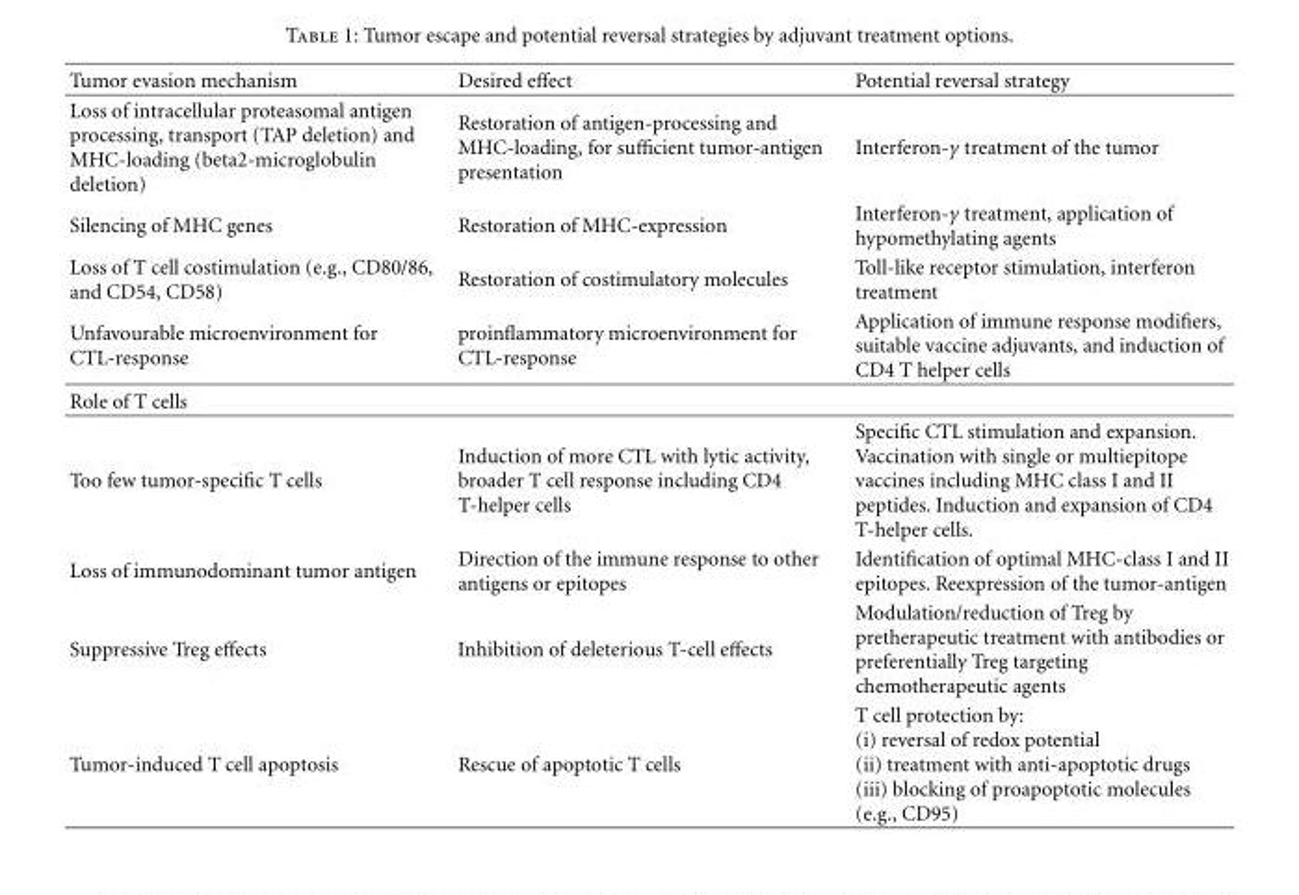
<table><thead><tr><td>Tumor evasion mechanism</td><td>Desired effect</td><td>Potential reversal strategy</td></tr></thead><tbody><tr><td>Loss of intracellular proteasomal antigen processing, transport (TAP deletion) and MHC-loading (beta2-microglobulin deletion)</td><td>Restoration of antigen-processing and MHC-loading, for sufficient tumor-antigen presentation</td><td>Interferon-γ treatment of the tumor</td></tr><tr><td>Silencing of MHC genes</td><td>Restoration of MHC-expression</td><td>Interferon-γ treatment, application of hypomethylating agents</td></tr><tr><td>Loss of T cell costimulation (e.g., CD80/86, and CD54, CD58)</td><td>Restoration of costimulatory molecules</td><td>Toll-like receptor stimulation, interferon treatment</td></tr><tr><td>Unfavourable microenvironment for CTL-response</td><td>proinflammatory microenvironment for CTL-response</td><td>Application of immune response modifiers, suitable vaccine adjuvants, and induction of CD4 T helper cells</td></tr><tr><td colspan="3">Role of T cells</td></tr><tr><td>Too few tumor-specific T cells</td><td>Induction of more CTL with lytic activity, broader T cell response including CD4 T-helper cells</td><td>Specific CTL stimulation and expansion. Vaccination with single or multiepitope vaccines including MHC class I and II peptides. Induction and expansion of CD4 T-helper cells.</td></tr><tr><td>Loss of immunodominant tumor antigen</td><td>Direction of the immune response to other antigens or epitopes</td><td>Identification of optimal MHC-class I and II epitopes. Reexpression of the tumor-antigen</td></tr><tr><td>Suppressive Treg effects</td><td>Inhibition of deleterious T-cell effects</td><td>Modulation/reduction of Treg by pretherapeutic treatment with antibodies or preferentially Treg targeting chemotherapeutic agents</td></tr><tr><td>Tumor-induced T cell apoptosis</td><td>Rescue of apoptotic T cells</td><td>T cell protection by: (i) reversal of redox potential (ii) treatment with anti-apoptotic drugs (iii) blocking of proapoptotic molecules (e.g., CD95)</td></tr></tbody></table>